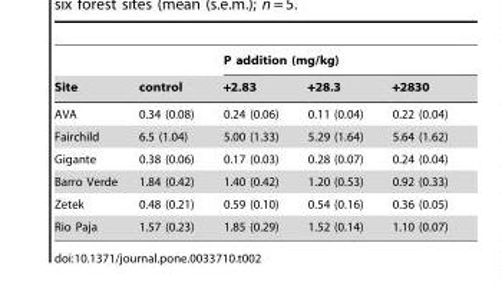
<table><thead><tr><td rowspan="2">Site</td><td rowspan="2">control</td><td colspan="3">P addition (mg/kg)</td></tr><tr><td>+2.83</td><td>+28.3</td><td>+2830</td></tr></thead><tbody><tr><td>AVA</td><td>0.34 (0.08)</td><td>0.24 (0.06)</td><td>0.11 (0.04)</td><td>0.22 (0.04)</td></tr><tr><td>Fairchild</td><td>6.5 (1.04)</td><td>5.00 (1.33)</td><td>5.29 (1.64)</td><td>5.64 (1.62)</td></tr><tr><td>Gigante</td><td>0.38 (0.06)</td><td>0.17 (0.03)</td><td>0.28 (0.07)</td><td>0.24 (0.04)</td></tr><tr><td>Barro Verde</td><td>1.84 (0.42)</td><td>1.40 (0.42)</td><td>1.20 (0.53)</td><td>0.92 (0.33)</td></tr><tr><td>Zetek</td><td>0.48 (0.21)</td><td>0.59 (0.10)</td><td>0.54 (0.16)</td><td>0.36 (0.05)</td></tr><tr><td>Rio Paja</td><td>1.57 (0.23)</td><td>1.85 (0.29)</td><td>1.52 (0.14)</td><td>1.10 (0.07)</td></tr></tbody></table>